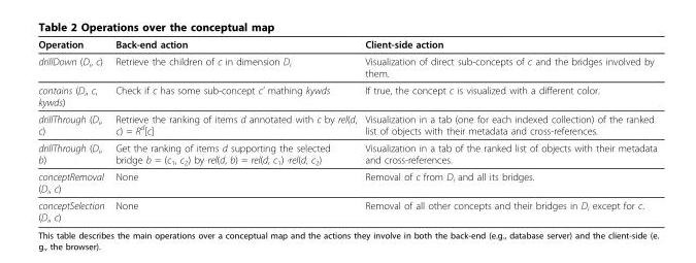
<table><thead><tr><td>Operation</td><td>Back-end action</td><td>Client-side action</td></tr></thead><tbody><tr><td>drillDown (D<sub>i</sub>, c)</td><td>Retrieve the children of c in dimension D<sub>i</sub></td><td>Visualization of direct sub-concepts of c and the bridges involved by them.</td></tr><tr><td>contains (D<sub>i</sub>, c, kywds)</td><td>Check if c has some sub-concept c’ mathing kywds</td><td>If true, the concept c is visualized with a different color.</td></tr><tr><td>drillThrough (D<sub>i</sub>, c)</td><td>Retrieve the ranking of items d annotated with c by rel(d, c) = R<sup>d</sup>[c]</td><td>Visualization in a tab (one for each indexed collection) of the ranked list of objects with their metadata and cross-references.</td></tr><tr><td>drillThrough (D<sub>i</sub>, b)</td><td>Get the ranking of items d supporting the selected bridge b = (c<sub>1</sub>, c<sub>2</sub>) by rel(d, b) = rel(d, c<sub>1</sub>) ·rel(d, c<sub>2</sub>)</td><td>Visualization in a tab of the ranked list of objects with their metadata and cross-references.</td></tr><tr><td>conceptRemoval (D<sub>i</sub>, c)</td><td>None</td><td>Removal of c from D<sub>i</sub> and all its bridges.</td></tr><tr><td>conceptSelection (D<sub>i</sub>, c)</td><td>None</td><td>Removal of all other concepts and their bridges in D<sub>i</sub> except for c.</td></tr></tbody></table>